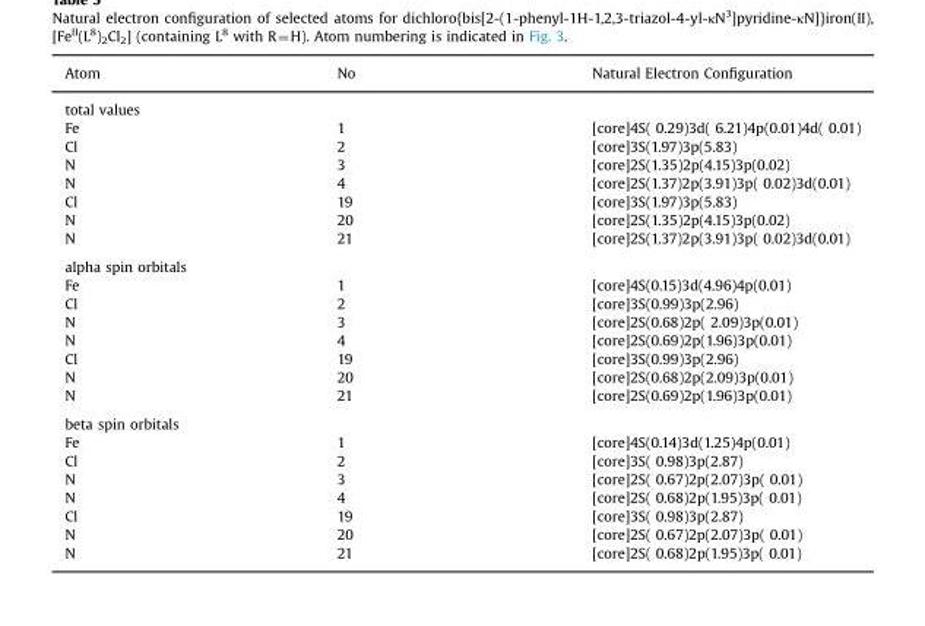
<table><thead><tr><td>Atom</td><td>No</td><td>Natural Electron Configuration</td></tr></thead><tbody><tr><td colspan="3">total values</td></tr><tr><td>Fe</td><td>1</td><td>[core]4S( 0.29)3d( 6.21)4p(0.01)4d( 0.01)</td></tr><tr><td>Cl</td><td>2</td><td>[core]3S(1.97)3p(5.83)</td></tr><tr><td>N</td><td>3</td><td>[core]2S(1.35)2p(4.15)3p(0.02)</td></tr><tr><td>N</td><td>4</td><td>[core]2S(1.37)2p(3.91)3p( 0.02)3d(0.01)</td></tr><tr><td>Cl</td><td>19</td><td>[core]3S(1.97)3p(5.83)</td></tr><tr><td>N</td><td>20</td><td>[core]2S(1.35)2p(4.15)3p(0.02)</td></tr><tr><td>N</td><td>21</td><td>[core]2S(1.37)2p(3.91)3p( 0.02)3d(0.01)</td></tr><tr><td colspan="3">alpha spin orbitals</td></tr><tr><td>Fe</td><td>1</td><td>[core]4S(0.15)3d(4.96)4p(0.01)</td></tr><tr><td>Cl</td><td>2</td><td>[core]3S(0.99)3p(2.96)</td></tr><tr><td>N</td><td>3</td><td>[core]2S(0.68)2p( 2.09)3p(0.01)</td></tr><tr><td>N</td><td>4</td><td>[core]2S(0.69)2p(1.96)3p(0.01)</td></tr><tr><td>Cl</td><td>19</td><td>[core]3S(0.99)3p(2.96)</td></tr><tr><td>N</td><td>20</td><td>[core]2S(0.68)2p(2.09)3p(0.01)</td></tr><tr><td>N</td><td>21</td><td>[core]2S(0.69)2p(1.96)3p(0.01)</td></tr><tr><td colspan="3">beta spin orbitals</td></tr><tr><td>Fe</td><td>1</td><td>[core]4S(0.14)3d(1.25)4p(0.01)</td></tr><tr><td>Cl</td><td>2</td><td>[core]3S( 0.98)3p(2.87)</td></tr><tr><td>N</td><td>3</td><td>[core]2S( 0.67)2p(2.07)3p( 0.01)</td></tr><tr><td>N</td><td>4</td><td>[core]2S( 0.68)2p(1.95)3p( 0.01)</td></tr><tr><td>Cl</td><td>19</td><td>[core]3S( 0.98)3p(2.87)</td></tr><tr><td>N</td><td>20</td><td>[core]2S( 0.67)2p(2.07)3p( 0.01)</td></tr><tr><td>N</td><td>21</td><td>[core]2S( 0.68)2p(1.95)3p( 0.01)</td></tr></tbody></table>